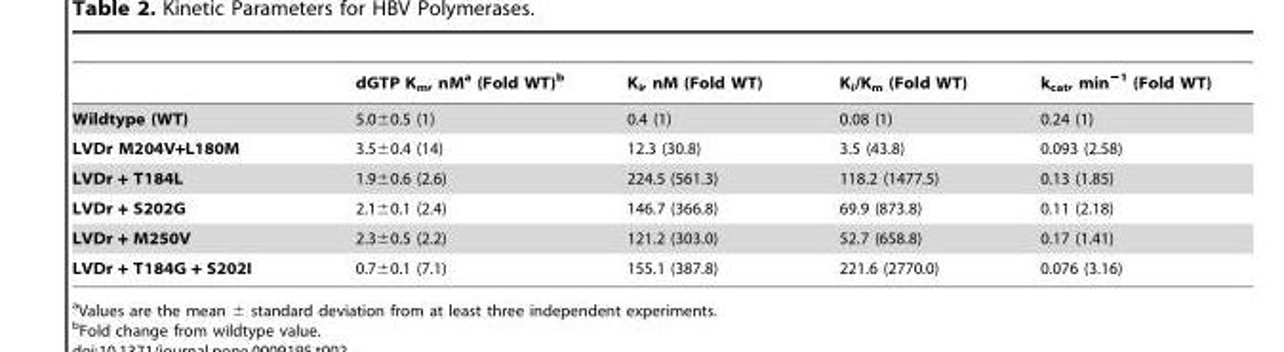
<table><thead><tr><td></td><td>dGTP K<sub>m</sub>, nM<sup>a</sup> (Fold WT)<sup>b</sup></td><td>K<sub>i</sub>, nM (Fold WT)</td><td>K<sub>i</sub>/K<sub>m</sub> (Fold WT)</td><td>k<sub>cat</sub>, min<sup>−1</sup> (Fold WT)</td></tr></thead><tbody><tr><td>Wildtype (WT)</td><td>5.0±0.5 (1)</td><td>0.4 (1)</td><td>0.08 (1)</td><td>0.24 (1)</td></tr><tr><td>LVDr M204V+L180M</td><td>3.5±0.4 (14)</td><td>12.3 (30.8)</td><td>3.5 (43.8)</td><td>0.093 (2.58)</td></tr><tr><td>LVDr + T184L</td><td>1.9±0.6 (2.6)</td><td>224.5 (561.3)</td><td>118.2 (1477.5)</td><td>0.13 (1.85)</td></tr><tr><td>LVDr + S202G</td><td>2.1±0.1 (2.4)</td><td>146.7 (366.8)</td><td>69.9 (873.8)</td><td>0.11 (2.18)</td></tr><tr><td>LVDr + M250V</td><td>2.3±0.5 (2.2)</td><td>121.2 (303.0)</td><td>52.7 (658.8)</td><td>0.17 (1.41)</td></tr><tr><td>LVDr + T184G + S202I</td><td>0.7±0.1 (7.1)</td><td>155.1 (387.8)</td><td>221.6 (2770.0)</td><td>0.076 (3.16)</td></tr></tbody></table>